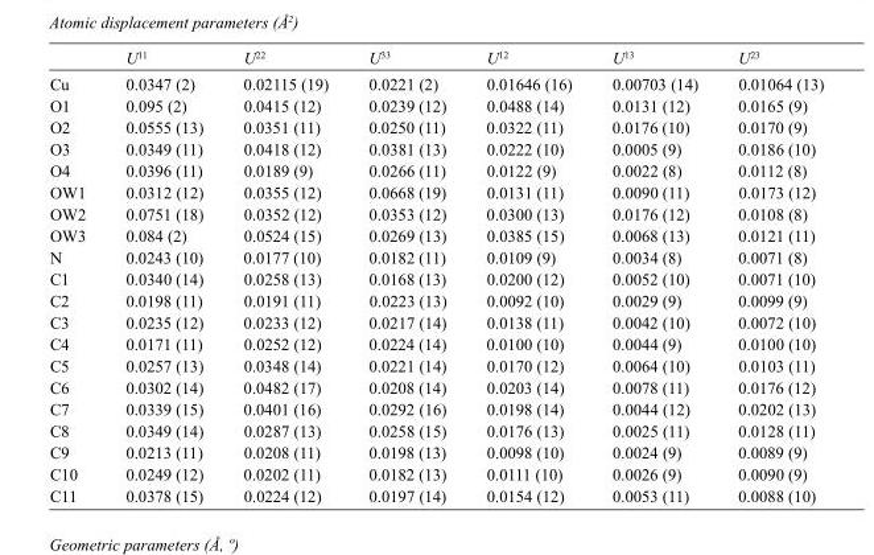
<table><thead><tr><td></td><td>U<sup>11</sup></td><td>U<sup>22</sup></td><td>U<sup>33</sup></td><td>U<sup>12</sup></td><td>U<sup>13</sup></td><td>U<sup>23</sup></td></tr></thead><tbody><tr><td>Cu</td><td>0.0347 (2)</td><td>0.02115 (19)</td><td>0.0221 (2)</td><td>0.01646 (16)</td><td>0.00703 (14)</td><td>0.01064 (13)</td></tr><tr><td>O1</td><td>0.095 (2)</td><td>0.0415 (12)</td><td>0.0239 (12)</td><td>0.0488 (14)</td><td>0.0131 (12)</td><td>0.0165 (9)</td></tr><tr><td>O2</td><td>0.0555 (13)</td><td>0.0351 (11)</td><td>0.0250 (11)</td><td>0.0322 (11)</td><td>0.0176 (10)</td><td>0.0170 (9)</td></tr><tr><td>O3</td><td>0.0349 (11)</td><td>0.0418 (12)</td><td>0.0381 (13)</td><td>0.0222 (10)</td><td>0.0005 (9)</td><td>0.0186 (10)</td></tr><tr><td>O4</td><td>0.0396 (11)</td><td>0.0189 (9)</td><td>0.0266 (11)</td><td>0.0122 (9)</td><td>0.0022 (8)</td><td>0.0112 (8)</td></tr><tr><td>OW1</td><td>0.0312 (12)</td><td>0.0355 (12)</td><td>0.0668 (19)</td><td>0.0131 (11)</td><td>0.0090 (11)</td><td>0.0173 (12)</td></tr><tr><td>OW2</td><td>0.0751 (18)</td><td>0.0352 (12)</td><td>0.0353 (12)</td><td>0.0300 (13)</td><td>0.0176 (12)</td><td>0.0108 (8)</td></tr><tr><td>OW3</td><td>0.084 (2)</td><td>0.0524 (15)</td><td>0.0269 (13)</td><td>0.0385 (15)</td><td>0.0068 (13)</td><td>0.0121 (11)</td></tr><tr><td>N</td><td>0.0243 (10)</td><td>0.0177 (10)</td><td>0.0182 (11)</td><td>0.0109 (9)</td><td>0.0034 (8)</td><td>0.0071 (8)</td></tr><tr><td>C1</td><td>0.0340 (14)</td><td>0.0258 (13)</td><td>0.0168 (13)</td><td>0.0200 (12)</td><td>0.0052 (10)</td><td>0.0071 (10)</td></tr><tr><td>C2</td><td>0.0198 (11)</td><td>0.0191 (11)</td><td>0.0223 (13)</td><td>0.0092 (10)</td><td>0.0029 (9)</td><td>0.0099 (9)</td></tr><tr><td>C3</td><td>0.0235 (12)</td><td>0.0233 (12)</td><td>0.0217 (14)</td><td>0.0138 (11)</td><td>0.0042 (10)</td><td>0.0072 (10)</td></tr><tr><td>C4</td><td>0.0171 (11)</td><td>0.0252 (12)</td><td>0.0224 (14)</td><td>0.0100 (10)</td><td>0.0044 (9)</td><td>0.0100 (10)</td></tr><tr><td>C5</td><td>0.0257 (13)</td><td>0.0348 (14)</td><td>0.0221 (14)</td><td>0.0170 (12)</td><td>0.0064 (10)</td><td>0.0103 (11)</td></tr><tr><td>C6</td><td>0.0302 (14)</td><td>0.0482 (17)</td><td>0.0208 (14)</td><td>0.0203 (14)</td><td>0.0078 (11)</td><td>0.0176 (12)</td></tr><tr><td>C7</td><td>0.0339 (15)</td><td>0.0401 (16)</td><td>0.0292 (16)</td><td>0.0198 (14)</td><td>0.0044 (12)</td><td>0.0202 (13)</td></tr><tr><td>C8</td><td>0.0349 (14)</td><td>0.0287 (13)</td><td>0.0258 (15)</td><td>0.0176 (13)</td><td>0.0025 (11)</td><td>0.0128 (11)</td></tr><tr><td>C9</td><td>0.0213 (11)</td><td>0.0208 (11)</td><td>0.0198 (13)</td><td>0.0098 (10)</td><td>0.0024 (9)</td><td>0.0089 (9)</td></tr><tr><td>C10</td><td>0.0249 (12)</td><td>0.0202 (11)</td><td>0.0182 (13)</td><td>0.0111 (10)</td><td>0.0026 (9)</td><td>0.0090 (9)</td></tr><tr><td>C11</td><td>0.0378 (15)</td><td>0.0224 (12)</td><td>0.0197 (14)</td><td>0.0154 (12)</td><td>0.0053 (11)</td><td>0.0088 (10)</td></tr></tbody></table>